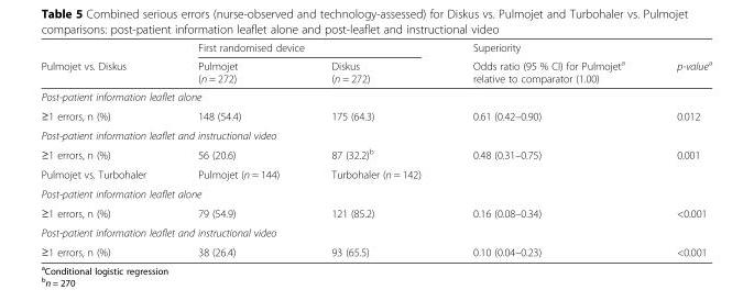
<table><thead><tr><td rowspan="2">Pulmojet vs. Diskus</td><td colspan="2">First randomised device</td><td rowspan="2">Superiority Odds ratio (95 % CI) for Pulmojet<sup>a</sup> relative to comparator (1.00)</td><td rowspan="2">p-value<sup>a</sup></td></tr><tr><td>Pulmojet (n = 272)</td><td>Diskus (n = 272)</td></tr></thead><tbody><tr><td colspan="5">Post-patient information leaflet alone</td></tr><tr><td>≥1 errors, n (%)</td><td>148 (54.4)</td><td>175 (64.3)</td><td>0.61 (0.42–0.90)</td><td>0.012</td></tr><tr><td colspan="5">Post-patient information leaflet and instructional video</td></tr><tr><td>≥1 errors, n (%)</td><td>56 (20.6)</td><td>87 (32.2)<sup>b</sup></td><td>0.48 (0.31–0.75)</td><td>0.001</td></tr><tr><td>Pulmojet vs. Turbohaler</td><td>Pulmojet (n = 144)</td><td>Turbohaler (n = 142)</td><td></td><td></td></tr><tr><td colspan="5">Post-patient information leaflet alone</td></tr><tr><td>≥1 errors, n (%)</td><td>79 (54.9)</td><td>121 (85.2)</td><td>0.16 (0.08–0.34)</td><td>&lt;0.001</td></tr><tr><td colspan="5">Post-patient information leaflet and instructional video</td></tr><tr><td>≥1 errors, n (%)</td><td>38 (26.4)</td><td>93 (65.5)</td><td>0.10 (0.04–0.23)</td><td>&lt;0.001</td></tr></tbody></table>